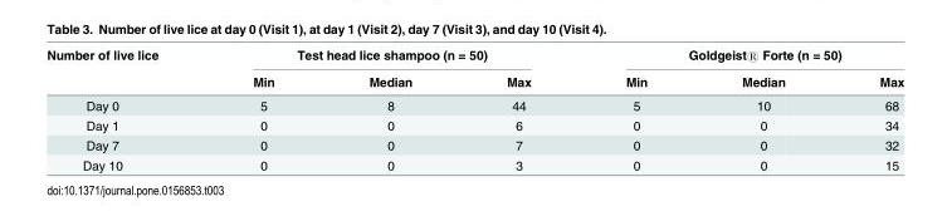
<table><thead><tr><td rowspan="2">Number of live lice</td><td colspan="3">Test head lice shampoo (n = 50)</td><td colspan="3">Goldgeist® Forte (n = 50)</td></tr><tr><td>Min</td><td>Median</td><td>Max</td><td>Min</td><td>Median</td><td>Max</td></tr></thead><tbody><tr><td>Day 0</td><td>5</td><td>8</td><td>44</td><td>5</td><td>10</td><td>68</td></tr><tr><td>Day 1</td><td>0</td><td>0</td><td>6</td><td>0</td><td>0</td><td>34</td></tr><tr><td>Day 7</td><td>0</td><td>0</td><td>7</td><td>0</td><td>0</td><td>32</td></tr><tr><td>Day 10</td><td>0</td><td>0</td><td>3</td><td>0</td><td>0</td><td>15</td></tr></tbody></table>